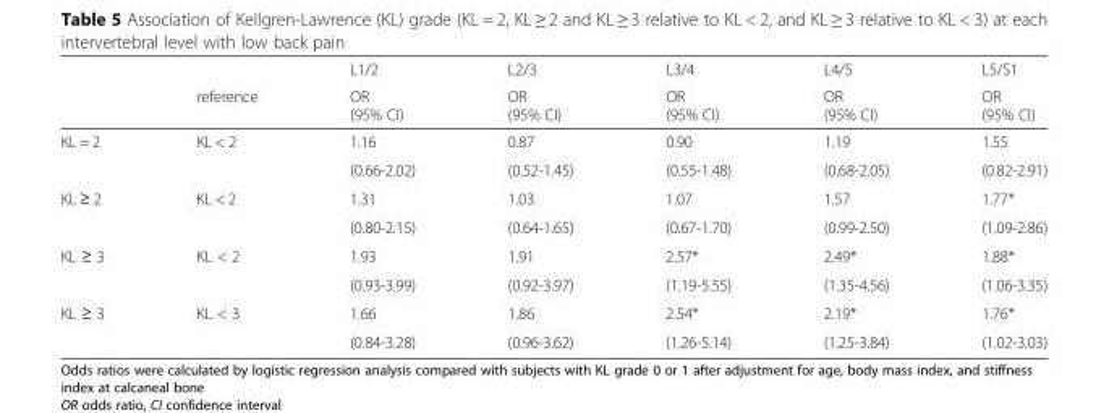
<table><thead><tr><td rowspan="2"></td><td rowspan="2">reference</td><td rowspan="2">L1/2 OR (95% CI)</td><td rowspan="2">L2/3 OR (95% CI)</td><td rowspan="2">L3/4 OR (95% CI)</td><td rowspan="2">L4/5 OR (95% CI)</td><td rowspan="2">L5/S1 OR (95% CI)</td></tr><tr></tr></thead><tbody><tr><td rowspan="2">KL = 2</td><td>KL &lt; 2</td><td>1.16</td><td>0.87</td><td>0.90</td><td>1.19</td><td>1.55</td></tr><tr><td></td><td>(0.66-2.02)</td><td>(0.52-1.45)</td><td>(0.55-1.48)</td><td>(0.68-2.05)</td><td>(0.82-2.91)</td></tr><tr><td rowspan="2">KL ≥ 2</td><td>KL &lt; 2</td><td>1.31</td><td>1.03</td><td>1.07</td><td>1.57</td><td>1.77*</td></tr><tr><td></td><td>(0.80-2.15)</td><td>(0.64-1.65)</td><td>(0.67-1.70)</td><td>(0.99-2.50)</td><td>(1.09-2.86)</td></tr><tr><td rowspan="2">KL ≥ 3</td><td>KL &lt; 2</td><td>1.93</td><td>1.91</td><td>2.57*</td><td>2.49*</td><td>1.88*</td></tr><tr><td></td><td>(0.93-3.99)</td><td>(0.92-3.97)</td><td>(1.19-5.55)</td><td>(1.35-4.56)</td><td>(1.06-3.35)</td></tr><tr><td rowspan="2">KL ≥ 3</td><td>KL &lt; 3</td><td>1.66</td><td>1.86</td><td>2.54*</td><td>2.19*</td><td>1.76*</td></tr><tr><td></td><td>(0.84-3.28)</td><td>(0.96-3.62)</td><td>(1.26-5.14)</td><td>(1.25-3.84)</td><td>(1.02-3.03)</td></tr></tbody></table>